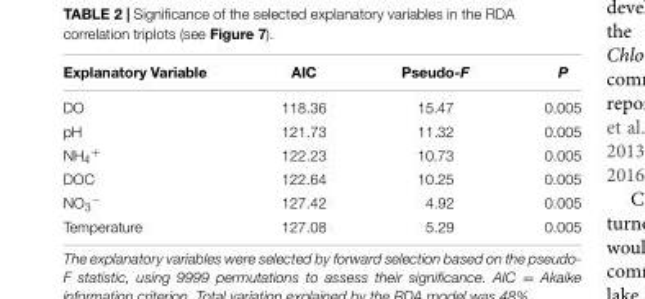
<table><thead><tr><td>Explanatory Variable</td><td>AIC</td><td>Pseudo-F</td><td>P</td></tr></thead><tbody><tr><td>DO</td><td>118.36</td><td>15.47</td><td>0.005</td></tr><tr><td>pH</td><td>121.73</td><td>11.32</td><td>0.005</td></tr><tr><td>NH<sub>4</sub><sup>+</sup></td><td>122.23</td><td>10.73</td><td>0.005</td></tr><tr><td>DOC</td><td>122.64</td><td>10.25</td><td>0.005</td></tr><tr><td>NO<sub>3</sub><sup>−</sup></td><td>127.42</td><td>4.92</td><td>0.005</td></tr><tr><td>Temperature</td><td>127.08</td><td>5.29</td><td>0.005</td></tr></tbody></table>